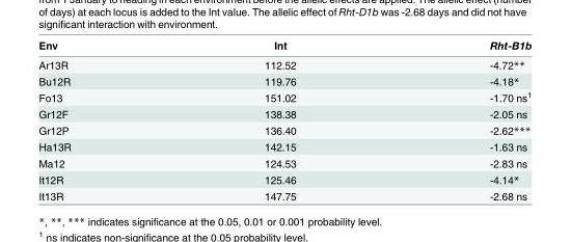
<table><thead><tr><td>Env</td><td>Int</td><td>Rht-B1b</td></tr></thead><tbody><tr><td>Ar13R</td><td>112.52</td><td>-4.72**</td></tr><tr><td>Bu12R</td><td>119.76</td><td>-4.18*</td></tr><tr><td>Fo13</td><td>151.02</td><td>-1.70 ns<sup>1</sup></td></tr><tr><td>Gr12F</td><td>138.38</td><td>-2.05 ns</td></tr><tr><td>Gr12P</td><td>136.40</td><td>-2.62***</td></tr><tr><td>Ha13R</td><td>142.15</td><td>-1.63 ns</td></tr><tr><td>Ma12</td><td>124.53</td><td>-2.83 ns</td></tr><tr><td>It12R</td><td>125.46</td><td>-4.14*</td></tr><tr><td>It13R</td><td>147.75</td><td>-2.68 ns</td></tr></tbody></table>